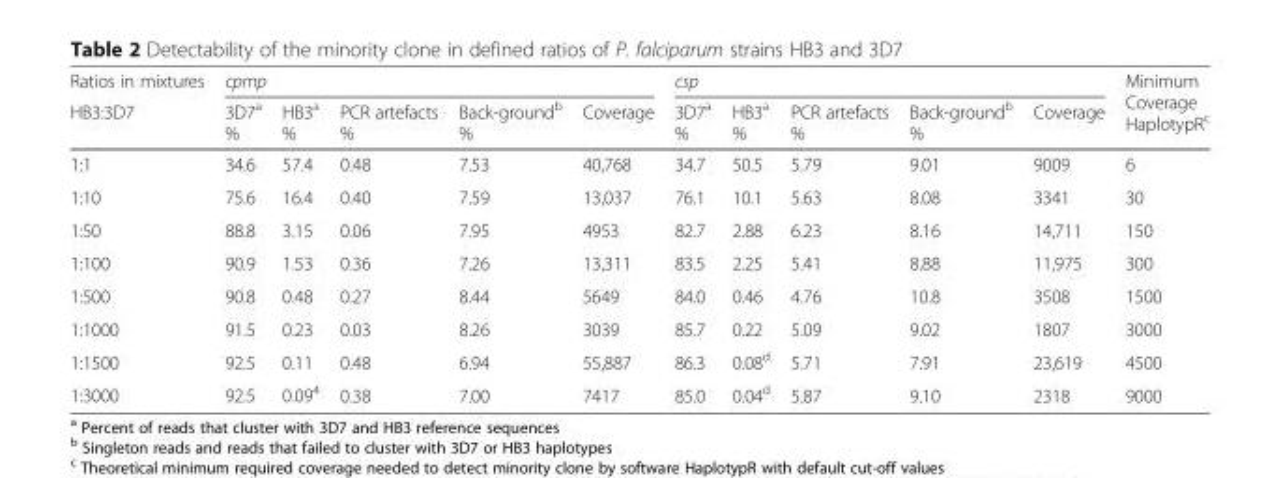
<table><thead><tr><td rowspan="2">Ratios in mixtures HB3:3D7</td><td colspan="5">cpmp</td><td colspan="5">csp</td><td rowspan="2">Minimum Coverage HaplotypR<sup>c</sup></td></tr><tr><td>3D7<sup>a</sup> %</td><td>HB3<sup>a</sup> %</td><td>PCR artefacts %</td><td>Back-ground<sup>b</sup> %</td><td>Coverage</td><td>3D7<sup>a</sup> %</td><td>HB3<sup>a</sup> %</td><td>PCR artefacts %</td><td>Back-ground<sup>b</sup> %</td><td>Coverage</td></tr></thead><tbody><tr><td>1:1</td><td>34.6</td><td>57.4</td><td>0.48</td><td>7.53</td><td>40,768</td><td>34.7</td><td>50.5</td><td>5.79</td><td>9.01</td><td>9009</td><td>6</td></tr><tr><td>1:10</td><td>75.6</td><td>16.4</td><td>0.40</td><td>7.59</td><td>13,037</td><td>76.1</td><td>10.1</td><td>5.63</td><td>8.08</td><td>3341</td><td>30</td></tr><tr><td>1:50</td><td>88.8</td><td>3.15</td><td>0.06</td><td>7.95</td><td>4953</td><td>82.7</td><td>2.88</td><td>6.23</td><td>8.16</td><td>14,711</td><td>150</td></tr><tr><td>1:100</td><td>90.9</td><td>1.53</td><td>0.36</td><td>7.26</td><td>13,311</td><td>83.5</td><td>2.25</td><td>5.41</td><td>8.88</td><td>11,975</td><td>300</td></tr><tr><td>1:500</td><td>90.8</td><td>0.48</td><td>0.27</td><td>8.44</td><td>5649</td><td>84.0</td><td>0.46</td><td>4.76</td><td>10.8</td><td>3508</td><td>1500</td></tr><tr><td>1:1000</td><td>91.5</td><td>0.23</td><td>0.03</td><td>8.26</td><td>3039</td><td>85.7</td><td>0.22</td><td>5.09</td><td>9.02</td><td>1807</td><td>3000</td></tr><tr><td>1:1500</td><td>92.5</td><td>0.11</td><td>0.48</td><td>6.94</td><td>55,887</td><td>86.3</td><td>0.08<sup>d</sup></td><td>5.71</td><td>7.91</td><td>23,619</td><td>4500</td></tr><tr><td>1:3000</td><td>92.5</td><td>0.09<sup>4</sup></td><td>0.38</td><td>7.00</td><td>7417</td><td>85.0</td><td>0.04<sup>d</sup></td><td>5.87</td><td>9.10</td><td>2318</td><td>9000</td></tr></tbody></table>